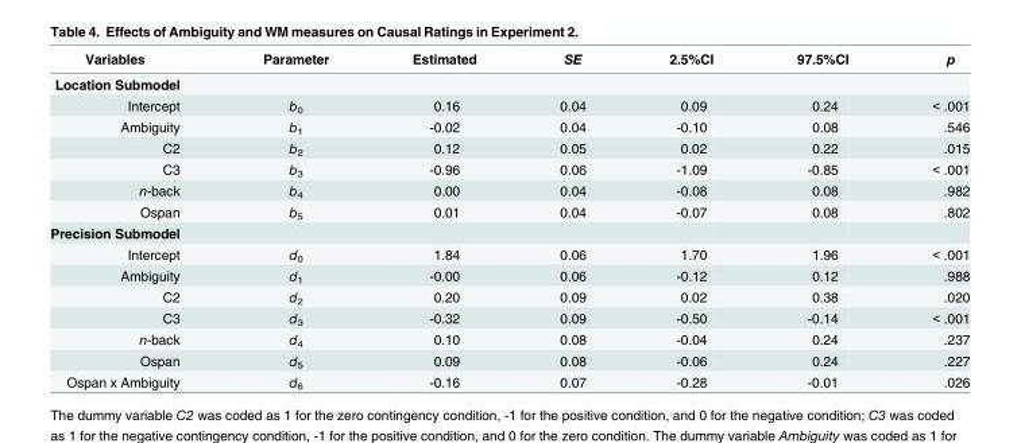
<table><thead><tr><td>Variables</td><td>Parameter</td><td>Estimated</td><td>SE</td><td>2.5%CI</td><td>97.5%CI</td><td>p</td></tr></thead><tbody><tr><td colspan="7">Location Submodel</td></tr><tr><td>Intercept</td><td>b<sub>0</sub></td><td>0.16</td><td>0.04</td><td>0.09</td><td>0.24</td><td>&lt; .001</td></tr><tr><td>Ambiguity</td><td>b<sub>1</sub></td><td>-0.02</td><td>0.04</td><td>-0.10</td><td>0.08</td><td>.546</td></tr><tr><td>C2</td><td>b<sub>2</sub></td><td>0.12</td><td>0.05</td><td>0.02</td><td>0.22</td><td>.015</td></tr><tr><td>C3</td><td>b<sub>3</sub></td><td>-0.96</td><td>0.06</td><td>-1.09</td><td>-0.85</td><td>&lt; .001</td></tr><tr><td>n-back</td><td>b<sub>4</sub></td><td>0.00</td><td>0.04</td><td>-0.08</td><td>0.08</td><td>.982</td></tr><tr><td>Ospan</td><td>b<sub>5</sub></td><td>0.01</td><td>0.04</td><td>-0.07</td><td>0.08</td><td>.802</td></tr><tr><td colspan="7">Precision Submodel</td></tr><tr><td>Intercept</td><td>d<sub>0</sub></td><td>1.84</td><td>0.06</td><td>1.70</td><td>1.96</td><td>&lt; .001</td></tr><tr><td>Ambiguity</td><td>d<sub>1</sub></td><td>-0.00</td><td>0.06</td><td>-0.12</td><td>0.12</td><td>.988</td></tr><tr><td>C2</td><td>d<sub>2</sub></td><td>0.20</td><td>0.09</td><td>0.02</td><td>0.38</td><td>.020</td></tr><tr><td>C3</td><td>d<sub>3</sub></td><td>-0.32</td><td>0.09</td><td>-0.50</td><td>-0.14</td><td>&lt; .001</td></tr><tr><td>n-back</td><td>d<sub>4</sub></td><td>0.10</td><td>0.08</td><td>-0.04</td><td>0.24</td><td>.237</td></tr><tr><td>Ospan</td><td>d<sub>5</sub></td><td>0.09</td><td>0.08</td><td>-0.06</td><td>0.24</td><td>.227</td></tr><tr><td>Ospan x Ambiguity</td><td>d<sub>6</sub></td><td>-0.16</td><td>0.07</td><td>-0.28</td><td>-0.01</td><td>.026</td></tr></tbody></table>